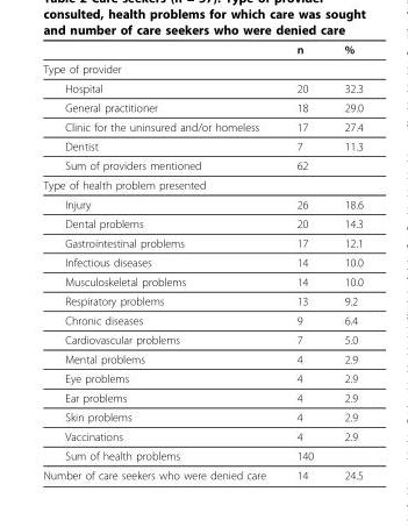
<table><thead><tr><td></td><td>n</td><td>%</td></tr></thead><tbody><tr><td colspan="3">Type of provider</td></tr><tr><td>Hospital</td><td>20</td><td>32.3</td></tr><tr><td>General practitioner</td><td>18</td><td>29.0</td></tr><tr><td>Clinic for the uninsured and/or homeless</td><td>17</td><td>27.4</td></tr><tr><td>Dentist</td><td>7</td><td>11.3</td></tr><tr><td>Sum of providers mentioned</td><td>62</td><td></td></tr><tr><td colspan="3">Type of health problem presented</td></tr><tr><td>Injury</td><td>26</td><td>18.6</td></tr><tr><td>Dental problems</td><td>20</td><td>14.3</td></tr><tr><td>Gastrointestinal problems</td><td>17</td><td>12.1</td></tr><tr><td>Infectious diseases</td><td>14</td><td>10.0</td></tr><tr><td>Musculoskeletal problems</td><td>14</td><td>10.0</td></tr><tr><td>Respiratory problems</td><td>13</td><td>9.2</td></tr><tr><td>Chronic diseases</td><td>9</td><td>6.4</td></tr><tr><td>Cardiovascular problems</td><td>7</td><td>5.0</td></tr><tr><td>Mental problems</td><td>4</td><td>2.9</td></tr><tr><td>Eye problems</td><td>4</td><td>2.9</td></tr><tr><td>Ear problems</td><td>4</td><td>2.9</td></tr><tr><td>Skin problems</td><td>4</td><td>2.9</td></tr><tr><td>Vaccinations</td><td>4</td><td>2.9</td></tr><tr><td>Sum of health problems</td><td>140</td><td></td></tr><tr><td>Number of care seekers who were denied care</td><td>14</td><td>24.5</td></tr></tbody></table>